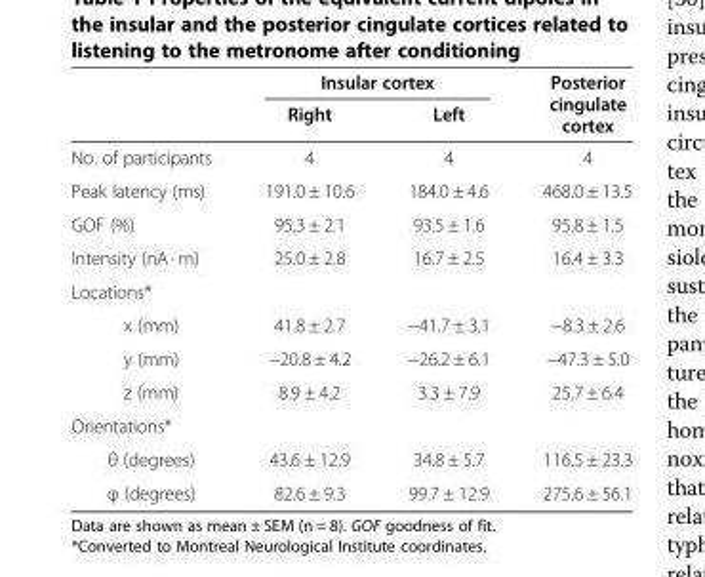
<table><thead><tr><td rowspan="2"></td><td colspan="2">Insular cortex</td><td rowspan="2">Posterior cingulate cortex</td></tr><tr><td>Right</td><td>Left</td></tr></thead><tbody><tr><td>No. of participants</td><td>4</td><td>4</td><td>4</td></tr><tr><td>Peak latency (ms)</td><td>191.0 ± 10.6</td><td>184.0 ± 4.6</td><td>468.0 ± 13.5</td></tr><tr><td>GOF (%)</td><td>95.3 ± 2.1</td><td>93.5 ± 1.6</td><td>95.8 ± 1.5</td></tr><tr><td>Intensity (nA · m)</td><td>25.0 ± 2.8</td><td>16.7 ± 2.5</td><td>16.4 ± 3.3</td></tr><tr><td colspan="4">Locations*</td></tr><tr><td>x (mm)</td><td>41.8 ± 2.7</td><td>−41.7 ± 3.1</td><td>−8.3 ± 2.6</td></tr><tr><td>y (mm)</td><td>−20.8 ± 4.2</td><td>−26.2 ± 6.1</td><td>−47.3 ± 5.0</td></tr><tr><td>z (mm)</td><td>8.9 ± 4.2</td><td>3.3 ± 7.9</td><td>25.7 ± 6.4</td></tr><tr><td colspan="4">Orientations*</td></tr><tr><td>θ (degrees)</td><td>43.6 ± 12.9</td><td>34.8 ± 5.7</td><td>116.5 ± 23.3</td></tr><tr><td>φ (degrees)</td><td>82.6 ± 9.3</td><td>99.7 ± 12.9</td><td>275.6 ± 56.1</td></tr></tbody></table>